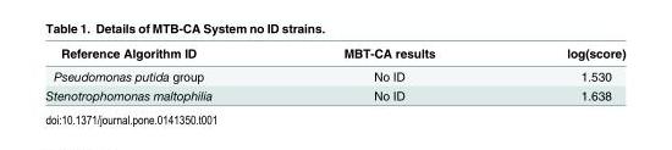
<table><thead><tr><td>Reference Algorithm ID</td><td>MBT-CA results</td><td>log(score)</td></tr></thead><tbody><tr><td>Pseudomonas putida group</td><td>No ID</td><td>1.530</td></tr><tr><td>Stenotrophomonas maltophilia</td><td>No ID</td><td>1.638</td></tr></tbody></table>